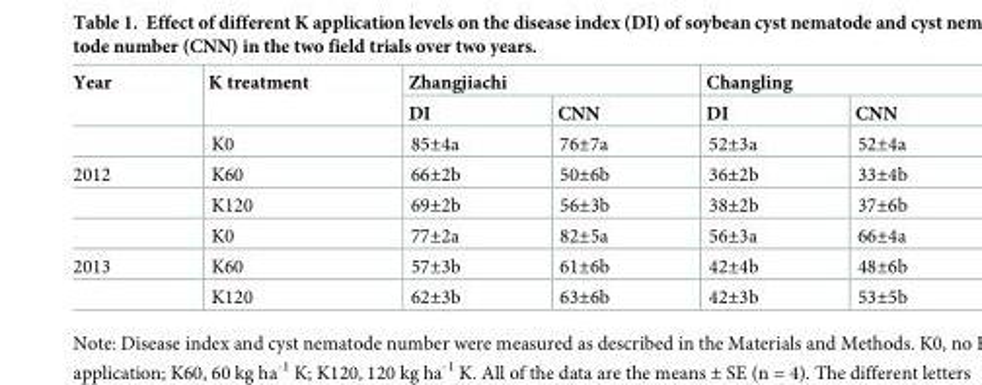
<table><thead><tr><td rowspan="2">Year</td><td rowspan="2">K treatment</td><td colspan="2">Zhangjiachi</td><td colspan="2">Changling</td></tr><tr><td>DI</td><td>CNN</td><td>DI</td><td>CNN</td></tr></thead><tbody><tr><td></td><td>K0</td><td>85±4a</td><td>76±7a</td><td>52±3a</td><td>52±4a</td></tr><tr><td rowspan="3">2012</td><td>K60</td><td>66±2b</td><td>50±6b</td><td>36±2b</td><td>33±4b</td></tr><tr><td>K120</td><td>69±2b</td><td>56±3b</td><td>38±2b</td><td>37±6b</td></tr><tr><td>K0</td><td>77±2a</td><td>82±5a</td><td>56±3a</td><td>66±4a</td></tr><tr><td rowspan="2">2013</td><td>K60</td><td>57±3b</td><td>61±6b</td><td>42±4b</td><td>48±6b</td></tr><tr><td>K120</td><td>62±3b</td><td>63±6b</td><td>42±3b</td><td>53±5b</td></tr></tbody></table>